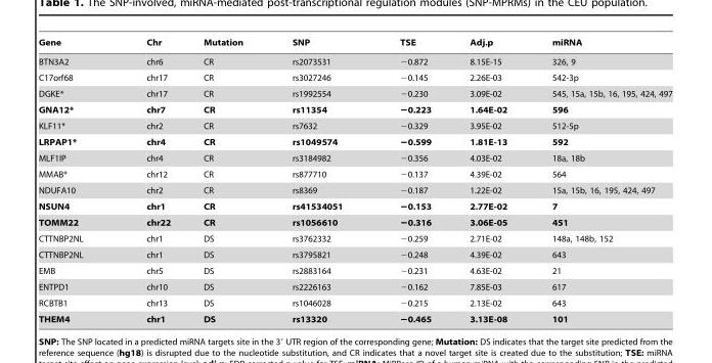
<table><thead><tr><td>Gene</td><td>Chr</td><td>Mutation</td><td>SNP</td><td>TSE</td><td>Adj.p</td><td>miRNA</td></tr></thead><tbody><tr><td>BTN3A2</td><td>chr6</td><td>CR</td><td>rs2073531</td><td>−0.872</td><td>8.15E-15</td><td>326, 9</td></tr><tr><td>C17orf68</td><td>chr17</td><td>CR</td><td>rs3027246</td><td>−0.145</td><td>2.26E-03</td><td>542-3p</td></tr><tr><td>DGKE*</td><td>chr17</td><td>CR</td><td>rs1992554</td><td>−0.230</td><td>3.09E-02</td><td>545, 15a, 15b, 16, 195, 424, 497</td></tr><tr><td>GNA12*</td><td>chr7</td><td>CR</td><td>rs11354</td><td>−0.223</td><td>1.64E-02</td><td>596</td></tr><tr><td>KLF11*</td><td>chr2</td><td>CR</td><td>rs7632</td><td>−0.329</td><td>3.95E-02</td><td>512-5p</td></tr><tr><td>LRPAP1*</td><td>chr4</td><td>CR</td><td>rs1049574</td><td>−0.599</td><td>1.81E-13</td><td>592</td></tr><tr><td>MLF1IP</td><td>chr4</td><td>CR</td><td>rs3184982</td><td>−0.356</td><td>4.03E-02</td><td>18a, 18b</td></tr><tr><td>MMAB*</td><td>chr12</td><td>CR</td><td>rs877710</td><td>−0.137</td><td>4.39E-02</td><td>564</td></tr><tr><td>NDUFA10</td><td>chr2</td><td>CR</td><td>rs8369</td><td>−0.187</td><td>1.22E-02</td><td>15a, 15b, 16, 195, 424, 497</td></tr><tr><td>NSUN4</td><td>chr1</td><td>CR</td><td>rs41534051</td><td>−0.153</td><td>2.77E-02</td><td>7</td></tr><tr><td>TOMM22</td><td>chr22</td><td>CR</td><td>rs1056610</td><td>−0.316</td><td>3.06E-05</td><td>451</td></tr><tr><td>CTTNBP2NL</td><td>chr1</td><td>DS</td><td>rs3762332</td><td>−0.259</td><td>2.71E-02</td><td>148a, 148b, 152</td></tr><tr><td>CTTNBP2NL</td><td>chr1</td><td>DS</td><td>rs3795821</td><td>−0.248</td><td>4.39E-02</td><td>643</td></tr><tr><td>EMB</td><td>chr5</td><td>DS</td><td>rs2883164</td><td>−0.231</td><td>4.63E-02</td><td>21</td></tr><tr><td>ENTPD1</td><td>chr10</td><td>DS</td><td>rs2226163</td><td>−0.162</td><td>7.85E-03</td><td>617</td></tr><tr><td>RCBTB1</td><td>chr13</td><td>DS</td><td>rs1046028</td><td>−0.215</td><td>2.13E-02</td><td>643</td></tr><tr><td>THEM4</td><td>chr1</td><td>DS</td><td>rs13320</td><td>−0.465</td><td>3.13E-08</td><td>101</td></tr></tbody></table>